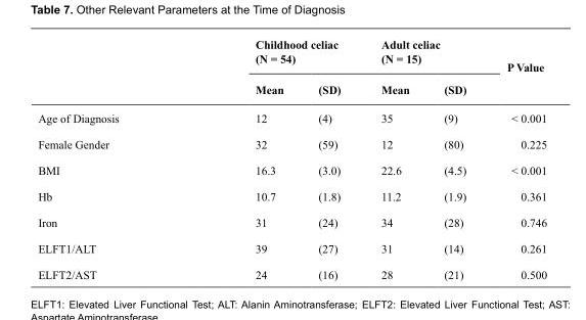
<table><thead><tr><td rowspan="2"></td><td colspan="2">Childhood celiac (N = 54)</td><td colspan="2">Adult celiac (N = 15)</td><td rowspan="2">P Value</td></tr><tr><td>Mean</td><td>(SD)</td><td>Mean</td><td>(SD)</td></tr></thead><tbody><tr><td>Age of Diagnosis</td><td>12</td><td>(4)</td><td>35</td><td>(9)</td><td>&lt; 0.001</td></tr><tr><td>Female Gender</td><td>32</td><td>(59)</td><td>12</td><td>(80)</td><td>0.225</td></tr><tr><td>BMI</td><td>16.3</td><td>(3.0)</td><td>22.6</td><td>(4.5)</td><td>&lt; 0.001</td></tr><tr><td>Hb</td><td>10.7</td><td>(1.8)</td><td>11.2</td><td>(1.9)</td><td>0.361</td></tr><tr><td>Iron</td><td>31</td><td>(24)</td><td>34</td><td>(28)</td><td>0.746</td></tr><tr><td>ELFT1/ALT</td><td>39</td><td>(27)</td><td>31</td><td>(14)</td><td>0.261</td></tr><tr><td>ELFT2/AST</td><td>24</td><td>(16)</td><td>28</td><td>(21)</td><td>0.500</td></tr></tbody></table>